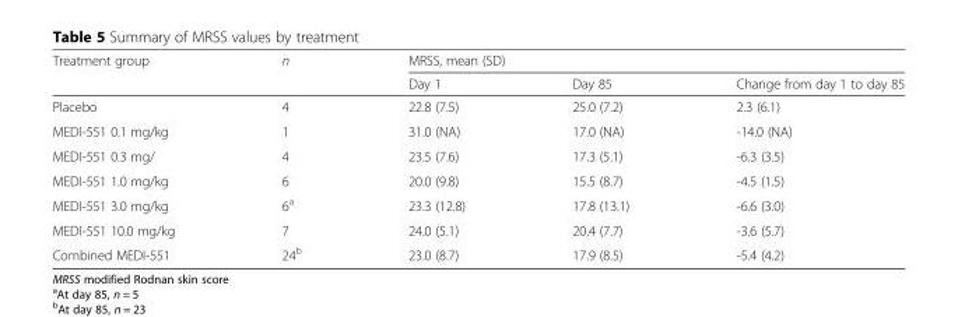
<table><thead><tr><td rowspan="2">Treatment group</td><td rowspan="2">n</td><td colspan="3">MRSS, mean (SD)</td></tr><tr><td>Day 1</td><td>Day 85</td><td>Change from day 1 to day 85</td></tr></thead><tbody><tr><td>Placebo</td><td>4</td><td>22.8 (7.5)</td><td>25.0 (7.2)</td><td>2.3 (6.1)</td></tr><tr><td>MEDI-551 0.1 mg/kg</td><td>1</td><td>31.0 (NA)</td><td>17.0 (NA)</td><td>-14.0 (NA)</td></tr><tr><td>MEDI-551 0.3 mg/</td><td>4</td><td>23.5 (7.6)</td><td>17.3 (5.1)</td><td>-6.3 (3.5)</td></tr><tr><td>MEDI-551 1.0 mg/kg</td><td>6</td><td>20.0 (9.8)</td><td>15.5 (8.7)</td><td>-4.5 (1.5)</td></tr><tr><td>MEDI-551 3.0 mg/kg</td><td>6<sup>a</sup></td><td>23.3 (12.8)</td><td>17.8 (13.1)</td><td>-6.6 (3.0)</td></tr><tr><td>MEDI-551 10.0 mg/kg</td><td>7</td><td>24.0 (5.1)</td><td>20.4 (7.7)</td><td>-3.6 (5.7)</td></tr><tr><td>Combined MEDI-551</td><td>24<sup>b</sup></td><td>23.0 (8.7)</td><td>17.9 (8.5)</td><td>-5.4 (4.2)</td></tr></tbody></table>